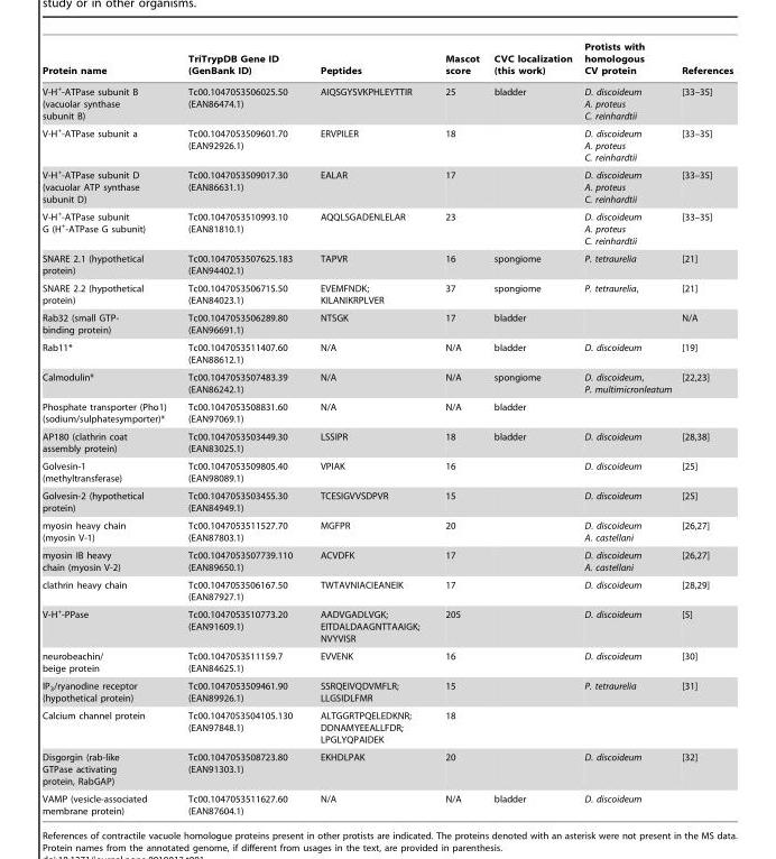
<table><thead><tr><td>Protein name</td><td>TriTrypDB Gene ID (GenBank ID)</td><td>Peptides</td><td>Mascot score</td><td>CVC localization (this work)</td><td>Protists with homologous CV protein</td><td>References</td></tr></thead><tbody><tr><td>V-H<sup>+</sup>-ATPase subunit B (vacuolar synthase subunit B)</td><td>Tc00.1047053506025.50 (EAN86474.1)</td><td>AIQSGYSVKPHLEYTTIR</td><td>25</td><td>bladder</td><td>D. discoideum A. proteus C. reinhardtii</td><td>[33–35]</td></tr><tr><td>V-H<sup>+</sup>-ATPase subunit a</td><td>Tc00.1047053509601.70 (EAN92926.1)</td><td>ERVPILER</td><td>18</td><td></td><td>D. discoideum A. proteus C. reinhardtii</td><td>[33–35]</td></tr><tr><td>V-H<sup>+</sup>-ATPase subunit D (vacuolar ATP synthase subunit D)</td><td>Tc00.1047053509017.30 (EAN86631.1)</td><td>EALAR</td><td>17</td><td></td><td>D. discoideum A. proteus C. reinhardtii</td><td>[33–35]</td></tr><tr><td>V-H<sup>+</sup>-ATPase subunit G (H<sup>+</sup>-ATPase G subunit)</td><td>Tc00.1047053510993.10 (EAN81810.1)</td><td>AQQLSGADENLELAR</td><td>23</td><td></td><td>D. discoideum A. proteus C. reinhardtii</td><td>[33–35]</td></tr><tr><td>SNARE 2.1 (hypothetical protein)</td><td>Tc00.1047053507625.183 (EAN94402.1)</td><td>TAPVR</td><td>16</td><td>spongiome</td><td>P. tetraurelia</td><td>[21]</td></tr><tr><td>SNARE 2.2 (hypothetical protein)</td><td>Tc00.1047053506715.50 (EAN84023.1)</td><td>EVEMFNDK; KILANIKRPLVER</td><td>37</td><td>spongiome</td><td>P. tetraurelia,</td><td>[21]</td></tr><tr><td>Rab32 (small GTP- binding protein)</td><td>Tc00.1047053506289.80 (EAN96691.1)</td><td>NTSGK</td><td>17</td><td>bladder</td><td></td><td>N/A</td></tr><tr><td>Rab11*</td><td>Tc00.1047053511407.60 (EAN88612.1)</td><td>N/A</td><td>N/A</td><td>bladder</td><td>D. discoideum</td><td>[19]</td></tr><tr><td>Calmodulin*</td><td>Tc00.1047053507483.39 (EAN86242.1)</td><td>N/A</td><td>N/A</td><td>spongiome</td><td>D. discoideum, P. multimicronleatum</td><td>[22,23]</td></tr><tr><td>Phosphate transporter (Pho1) (sodium/sulphatesymporter)*</td><td>Tc00.1047053508831.60 (EAN97069.1)</td><td>N/A</td><td>N/A</td><td>bladder</td><td></td><td></td></tr><tr><td>AP180 (clathrin coat assembly protein)</td><td>Tc00.1047053503449.30 (EAN83025.1)</td><td>LSSIPR</td><td>18</td><td>bladder</td><td>D. discoideum</td><td>[28,38]</td></tr><tr><td>Golvesin-1 (methyltransferase)</td><td>Tc00.1047053509805.40 (EAN98089.1)</td><td>VPIAK</td><td>16</td><td></td><td>D. discoideum</td><td>[25]</td></tr><tr><td>Golvesin-2 (hypothetical protein)</td><td>Tc00.1047053503455.30 (EAN84949.1)</td><td>TCESIGVVSDPVR</td><td>15</td><td></td><td>D. discoideum</td><td>[25]</td></tr><tr><td>myosin heavy chain (myosin V-1)</td><td>Tc00.1047053511527.70 (EAN87803.1)</td><td>MGFPR</td><td>20</td><td></td><td>D. discoideum A. castellani</td><td>[26,27]</td></tr><tr><td>myosin IB heavy chain (myosin V-2)</td><td>Tc00.1047053507739.110 (EAN89650.1)</td><td>ACVDFK</td><td>17</td><td></td><td>D. discoideum A. castellani</td><td>[26,27]</td></tr><tr><td>clathrin heavy chain</td><td>Tc00.1047053506167.50 (EAN87927.1)</td><td>TWTAVNIACIEANEIK</td><td>17</td><td></td><td>D. discoideum</td><td>[28,29]</td></tr><tr><td>V-H<sup>+</sup>-PPase</td><td>Tc00.1047053510773.20 (EAN91609.1)</td><td>AADVGADLVGK; EITDALDAAGNTTAAIGK; NVYVISR</td><td>205</td><td></td><td>D. discoideum</td><td>[5]</td></tr><tr><td>neurobeachin/ beige protein</td><td>Tc00.1047053511159.7 (EAN84625.1)</td><td>EVVENK</td><td>16</td><td></td><td>D. discoideum</td><td>[30]</td></tr><tr><td>IP<sub>3</sub>/ryanodine receptor (hypothetical protein)</td><td>Tc00.1047053509461.90 (EAN89926.1)</td><td>SSRQEIVQDVMFLR; LLGSIDLFMR</td><td>15</td><td></td><td>P. tetraurelia</td><td>[31]</td></tr><tr><td>Calcium channel protein</td><td>Tc00.1047053504105.130 (EAN97848.1)</td><td>ALTGGRTPQELEDKNR; DDNAMYEEALLFDR; LPGLYQPAIDEK</td><td>18</td><td></td><td></td><td></td></tr><tr><td>Disgorgin (rab-like GTPase activating protein, RabGAP)</td><td>Tc00.1047053508723.80 (EAN91303.1)</td><td>EKHDLPAK</td><td>20</td><td></td><td>D. discoideum</td><td>[32]</td></tr><tr><td>VAMP (vesicle-associated membrane protein)</td><td>Tc00.1047053511627.60 (EAN87604.1)</td><td>N/A</td><td>N/A</td><td>bladder</td><td>D. discoideum</td><td></td></tr></tbody></table>